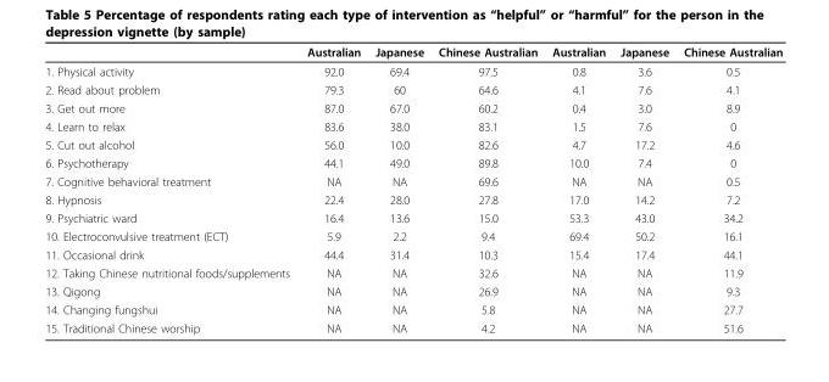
<table><thead><tr><td></td><td>Australian</td><td>Japanese</td><td>Chinese Australian</td><td>Australian</td><td>Japanese</td><td>Chinese Australian</td></tr></thead><tbody><tr><td>1. Physical activity</td><td>92.0</td><td>69.4</td><td>97.5</td><td>0.8</td><td>3.6</td><td>0.5</td></tr><tr><td>2. Read about problem</td><td>79.3</td><td>60</td><td>64.6</td><td>4.1</td><td>7.6</td><td>4.1</td></tr><tr><td>3. Get out more</td><td>87.0</td><td>67.0</td><td>60.2</td><td>0.4</td><td>3.0</td><td>8.9</td></tr><tr><td>4. Learn to relax</td><td>83.6</td><td>38.0</td><td>83.1</td><td>1.5</td><td>7.6</td><td>0</td></tr><tr><td>5. Cut out alcohol</td><td>56.0</td><td>10.0</td><td>82.6</td><td>4.7</td><td>17.2</td><td>4.6</td></tr><tr><td>6. Psychotherapy</td><td>44.1</td><td>49.0</td><td>89.8</td><td>10.0</td><td>7.4</td><td>0</td></tr><tr><td>7. Cognitive behavioral treatment</td><td>NA</td><td>NA</td><td>69.6</td><td>NA</td><td>NA</td><td>0.5</td></tr><tr><td>8. Hypnosis</td><td>22.4</td><td>28.0</td><td>27.8</td><td>17.0</td><td>14.2</td><td>7.2</td></tr><tr><td>9. Psychiatric ward</td><td>16.4</td><td>13.6</td><td>15.0</td><td>53.3</td><td>43.0</td><td>34.2</td></tr><tr><td>10. Electroconvulsive treatment (ECT)</td><td>5.9</td><td>2.2</td><td>9.4</td><td>69.4</td><td>50.2</td><td>16.1</td></tr><tr><td>11. Occasional drink</td><td>44.4</td><td>31.4</td><td>10.3</td><td>15.4</td><td>17.4</td><td>44.1</td></tr><tr><td>12. Taking Chinese nutritional foods/supplements</td><td>NA</td><td>NA</td><td>32.6</td><td>NA</td><td>NA</td><td>11.9</td></tr><tr><td>13. Qigong</td><td>NA</td><td>NA</td><td>26.9</td><td>NA</td><td>NA</td><td>9.3</td></tr><tr><td>14. Changing fungshui</td><td>NA</td><td>NA</td><td>5.8</td><td>NA</td><td>NA</td><td>27.7</td></tr><tr><td>15. Traditional Chinese worship</td><td>NA</td><td>NA</td><td>4.2</td><td>NA</td><td>NA</td><td>51.6</td></tr></tbody></table>